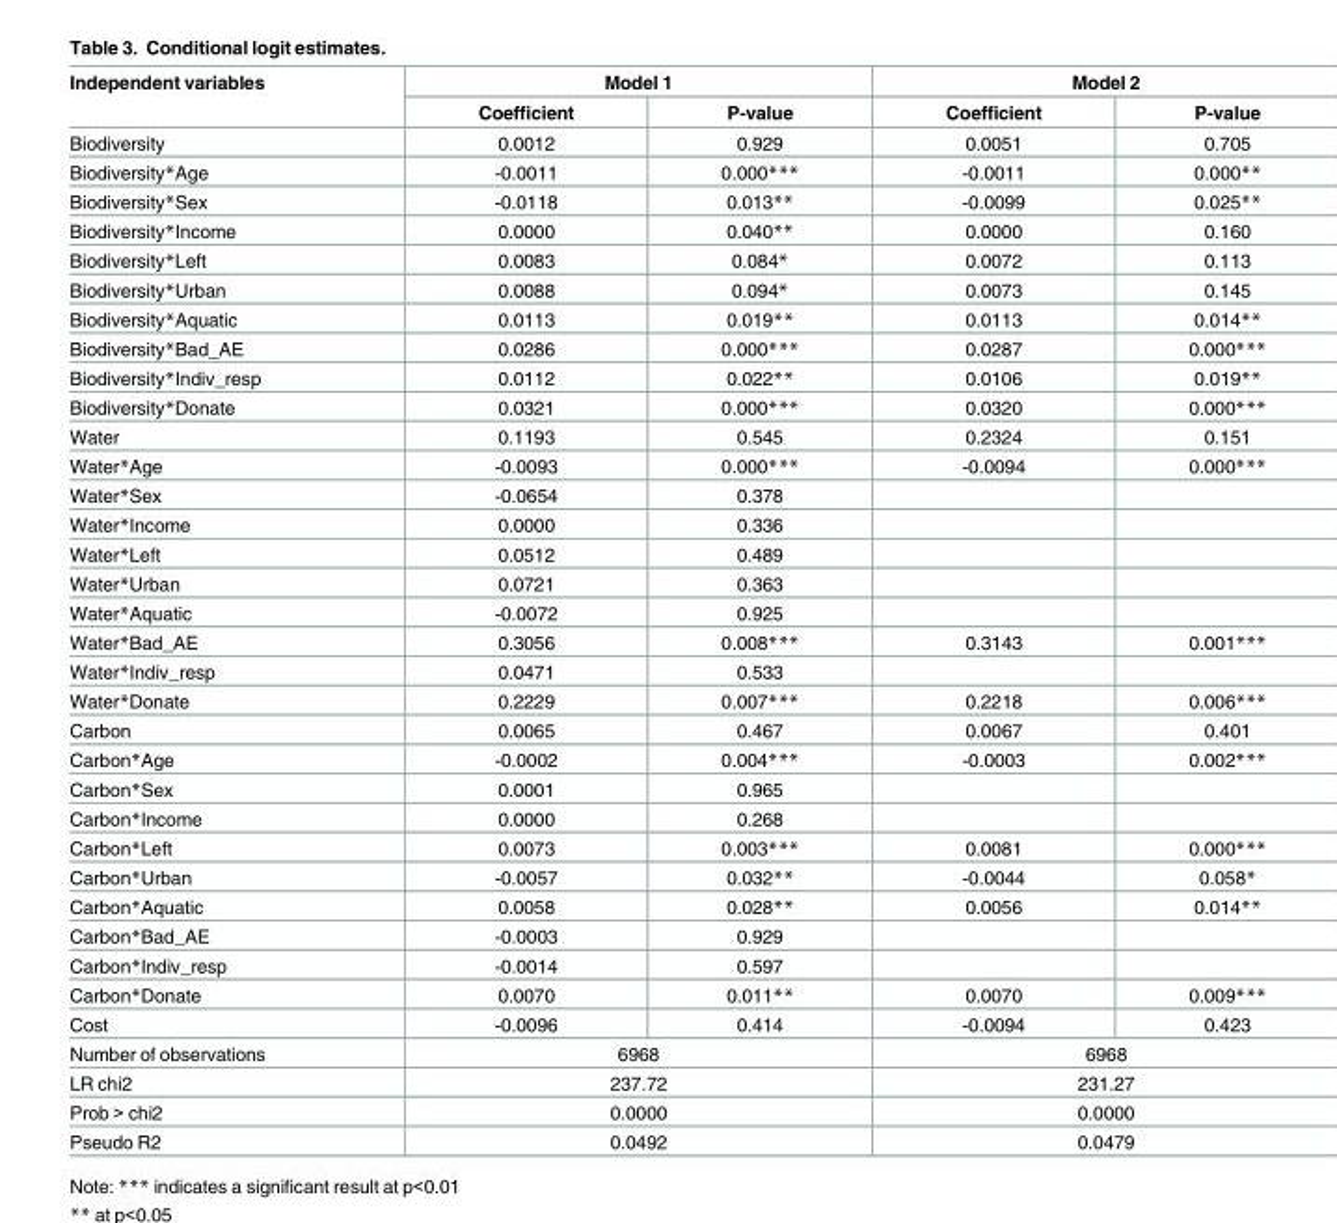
<table><thead><tr><td rowspan="2">Independent variables</td><td colspan="2">Model 1</td><td colspan="2">Model 2</td></tr><tr><td>Coefficient</td><td>P-value</td><td>Coefficient</td><td>P-value</td></tr></thead><tbody><tr><td>Biodiversity</td><td>0.0012</td><td>0.929</td><td>0.0051</td><td>0.705</td></tr><tr><td>Biodiversity*Age</td><td>-0.0011</td><td>0.000***</td><td>-0.0011</td><td>0.000**</td></tr><tr><td>Biodiversity*Sex</td><td>-0.0118</td><td>0.013**</td><td>-0.0099</td><td>0.025**</td></tr><tr><td>Biodiversity*Income</td><td>0.0000</td><td>0.040**</td><td>0.0000</td><td>0.160</td></tr><tr><td>Biodiversity*Left</td><td>0.0083</td><td>0.084*</td><td>0.0072</td><td>0.113</td></tr><tr><td>Biodiversity*Urban</td><td>0.0088</td><td>0.094*</td><td>0.0073</td><td>0.145</td></tr><tr><td>Biodiversity*Aquatic</td><td>0.0113</td><td>0.019**</td><td>0.0113</td><td>0.014**</td></tr><tr><td>Biodiversity*Bad_AE</td><td>0.0286</td><td>0.000***</td><td>0.0287</td><td>0.000***</td></tr><tr><td>Biodiversity*Indiv_resp</td><td>0.0112</td><td>0.022**</td><td>0.0106</td><td>0.019**</td></tr><tr><td>Biodiversity*Donate</td><td>0.0321</td><td>0.000***</td><td>0.0320</td><td>0.000***</td></tr><tr><td>Water</td><td>0.1193</td><td>0.545</td><td>0.2324</td><td>0.151</td></tr><tr><td>Water*Age</td><td>-0.0093</td><td>0.000***</td><td>-0.0094</td><td>0.000***</td></tr><tr><td>Water*Sex</td><td>-0.0654</td><td>0.378</td><td></td><td></td></tr><tr><td>Water*Income</td><td>0.0000</td><td>0.336</td><td></td><td></td></tr><tr><td>Water*Left</td><td>0.0512</td><td>0.489</td><td></td><td></td></tr><tr><td>Water*Urban</td><td>0.0721</td><td>0.363</td><td></td><td></td></tr><tr><td>Water*Aquatic</td><td>-0.0072</td><td>0.925</td><td></td><td></td></tr><tr><td>Water*Bad_AE</td><td>0.3056</td><td>0.008***</td><td>0.3143</td><td>0.001***</td></tr><tr><td>Water*Indiv_resp</td><td>0.0471</td><td>0.533</td><td></td><td></td></tr><tr><td>Water*Donate</td><td>0.2229</td><td>0.007***</td><td>0.2218</td><td>0.006***</td></tr><tr><td>Carbon</td><td>0.0065</td><td>0.467</td><td>0.0067</td><td>0.401</td></tr><tr><td>Carbon*Age</td><td>-0.0002</td><td>0.004***</td><td>-0.0003</td><td>0.002***</td></tr><tr><td>Carbon*Sex</td><td>0.0001</td><td>0.965</td><td></td><td></td></tr><tr><td>Carbon*Income</td><td>0.0000</td><td>0.268</td><td></td><td></td></tr><tr><td>Carbon*Left</td><td>0.0073</td><td>0.003***</td><td>0.0081</td><td>0.000***</td></tr><tr><td>Carbon*Urban</td><td>-0.0057</td><td>0.032**</td><td>-0.0044</td><td>0.058*</td></tr><tr><td>Carbon*Aquatic</td><td>0.0058</td><td>0.028**</td><td>0.0056</td><td>0.014**</td></tr><tr><td>Carbon*Bad_AE</td><td>-0.0003</td><td>0.929</td><td></td><td></td></tr><tr><td>Carbon*Indiv_resp</td><td>-0.0014</td><td>0.597</td><td></td><td></td></tr><tr><td>Carbon*Donate</td><td>0.0070</td><td>0.011**</td><td>0.0070</td><td>0.009***</td></tr><tr><td>Cost</td><td>-0.0096</td><td>0.414</td><td>-0.0094</td><td>0.423</td></tr><tr><td>Number of observations</td><td colspan="2">6968</td><td colspan="2">6968</td></tr><tr><td>LR chi2</td><td colspan="2">237.72</td><td colspan="2">231.27</td></tr><tr><td>Prob &gt; chi2</td><td colspan="2">0.0000</td><td colspan="2">0.0000</td></tr><tr><td>Pseudo R2</td><td colspan="2">0.0492</td><td colspan="2">0.0479</td></tr></tbody></table>